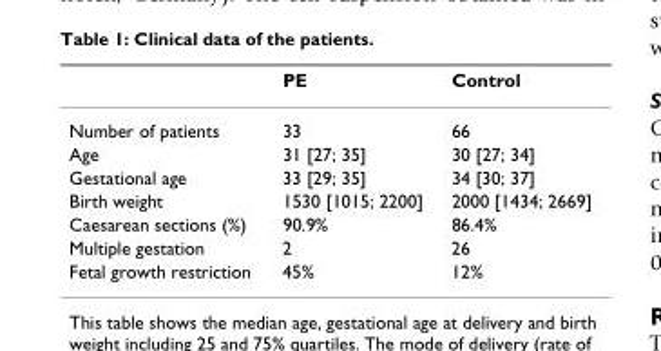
<table><thead><tr><td></td><td>PE</td><td>Control</td></tr></thead><tbody><tr><td>Number of patients</td><td>33</td><td>66</td></tr><tr><td>Age</td><td>31 [27; 35]</td><td>30 [27; 34]</td></tr><tr><td>Gestational age</td><td>33 [29; 35]</td><td>34 [30; 37]</td></tr><tr><td>Birth weight</td><td>1530 [1015; 2200]</td><td>2000 [1434; 2669]</td></tr><tr><td>Caesarean sections (%)</td><td>90.9%</td><td>86.4%</td></tr><tr><td>Multiple gestation</td><td>2</td><td>26</td></tr><tr><td>Fetal growth restriction</td><td>45%</td><td>12%</td></tr></tbody></table>